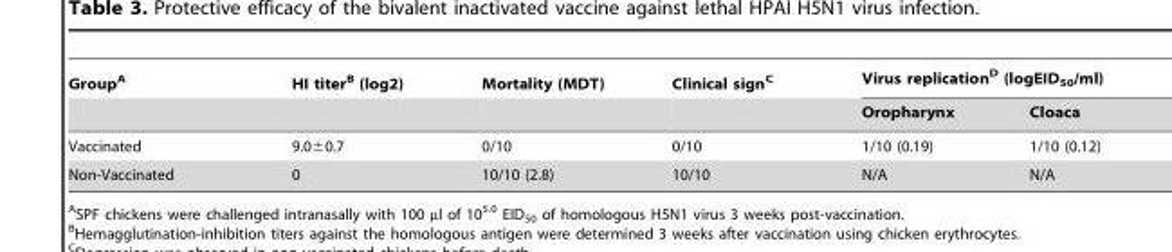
<table><thead><tr><td rowspan="2">Group<sup>A</sup></td><td rowspan="2">HI titer<sup>B</sup> (log2)</td><td rowspan="2">Mortality (MDT)</td><td rowspan="2">Clinical sign<sup>C</sup></td><td colspan="2">Virus replication<sup>D</sup> (logEID<sub>50</sub>/ml)</td></tr><tr><td>Oropharynx</td><td>Cloaca</td></tr></thead><tbody><tr><td>Vaccinated</td><td>9.0±0.7</td><td>0/10</td><td>0/10</td><td>1/10 (0.19)</td><td>1/10 (0.12)</td></tr><tr><td>Non-Vaccinated</td><td>0</td><td>10/10 (2.8)</td><td>10/10</td><td>N/A</td><td>N/A</td></tr></tbody></table>